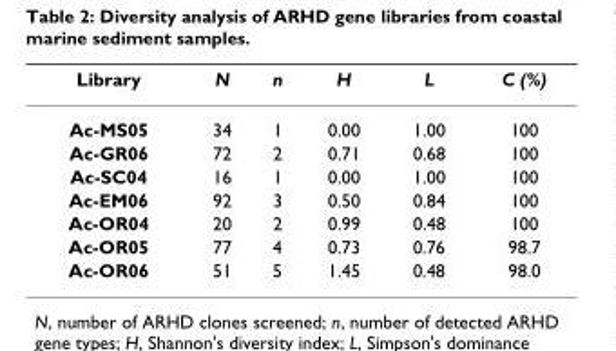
<table><thead><tr><td>Library</td><td>N</td><td>n</td><td>H</td><td>L</td><td>C (%)</td></tr></thead><tbody><tr><td>Ac-MS05</td><td>34</td><td>1</td><td>0.00</td><td>1.00</td><td>100</td></tr><tr><td>Ac-GR06</td><td>72</td><td>2</td><td>0.71</td><td>0.68</td><td>100</td></tr><tr><td>Ac-SC04</td><td>16</td><td>1</td><td>0.00</td><td>1.00</td><td>100</td></tr><tr><td>Ac-EM06</td><td>92</td><td>3</td><td>0.50</td><td>0.84</td><td>100</td></tr><tr><td>Ac-OR04</td><td>20</td><td>2</td><td>0.99</td><td>0.48</td><td>100</td></tr><tr><td>Ac-OR05</td><td>77</td><td>4</td><td>0.73</td><td>0.76</td><td>98.7</td></tr><tr><td>Ac-OR06</td><td>51</td><td>5</td><td>1.45</td><td>0.48</td><td>98.0</td></tr></tbody></table>